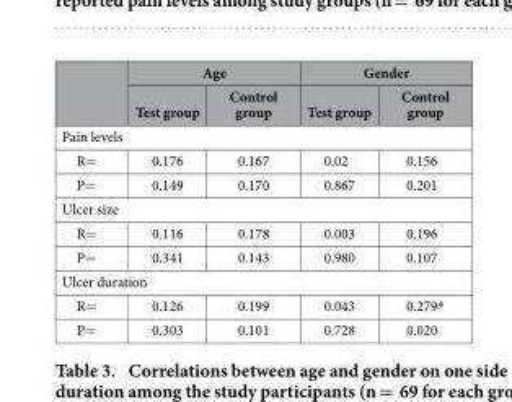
<table><thead><tr><td rowspan="2"></td><td colspan="2">Age</td><td colspan="2">Gender</td></tr><tr><td>Test group</td><td>Control group</td><td>Test group</td><td>Control group</td></tr></thead><tbody><tr><td colspan="5">Pain levels</td></tr><tr><td>R=</td><td>0.176</td><td>0.167</td><td>0.02</td><td>0.156</td></tr><tr><td>P=</td><td>0.149</td><td>0.170</td><td>0.867</td><td>0.201</td></tr><tr><td colspan="5">Ulcer size</td></tr><tr><td>R=</td><td>0.116</td><td>0.178</td><td>0.003</td><td>0.196</td></tr><tr><td>P=</td><td>0.341</td><td>0.143</td><td>0.980</td><td>0.107</td></tr><tr><td colspan="5">Ulcer duration</td></tr><tr><td>R=</td><td>0.126</td><td>0.199</td><td>0.043</td><td>0.279*</td></tr><tr><td>P=</td><td>0.303</td><td>0.101</td><td>0.728</td><td>0.020</td></tr></tbody></table>